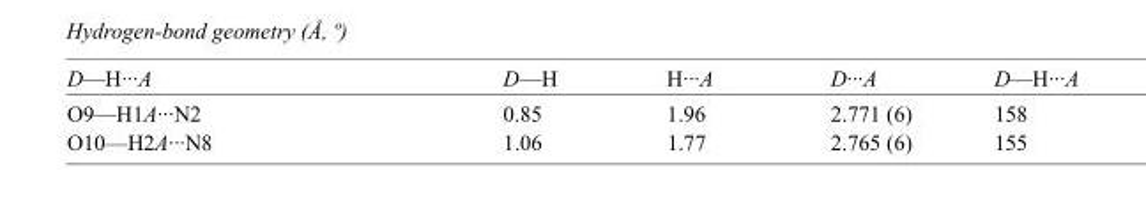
<table><tbody><tr><td>D—H···A</td><td>D—H</td><td>H···A</td><td>D···A</td><td>D—H···A</td></tr><tr><td>O9—H1A···N2</td><td>0.85</td><td>1.96</td><td>2.771 (6)</td><td>158</td></tr><tr><td>O10—H2A···N8</td><td>1.06</td><td>1.77</td><td>2.765 (6)</td><td>155</td></tr></tbody></table>